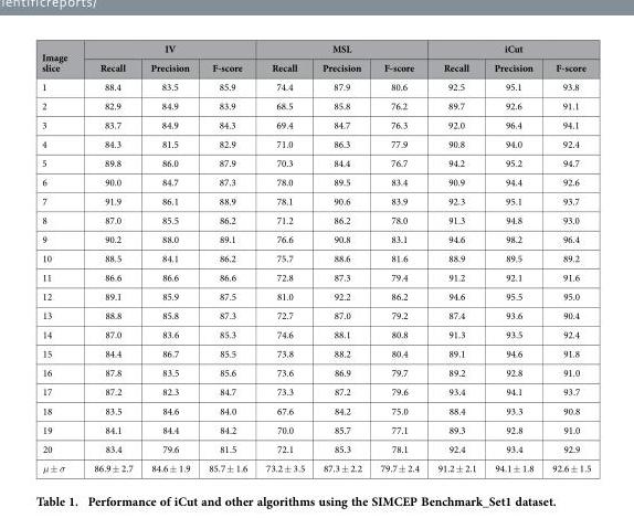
<table><thead><tr><td rowspan="2">Image slice</td><td colspan="3">IV</td><td colspan="3">MSL</td><td colspan="3">iCut</td></tr><tr><td>Recall</td><td>Precision</td><td>F-score</td><td>Recall</td><td>Precision</td><td>F-score</td><td>Recall</td><td>Precision</td><td>F-score</td></tr></thead><tbody><tr><td>1</td><td>88.4</td><td>83.5</td><td>85.9</td><td>74.4</td><td>87.9</td><td>80.6</td><td>92.5</td><td>95.1</td><td>93.8</td></tr><tr><td>2</td><td>82.9</td><td>84.9</td><td>83.9</td><td>68.5</td><td>85.8</td><td>76.2</td><td>89.7</td><td>92.6</td><td>91.1</td></tr><tr><td>3</td><td>83.7</td><td>84.9</td><td>84.3</td><td>69.4</td><td>84.7</td><td>76.3</td><td>92.0</td><td>96.4</td><td>94.1</td></tr><tr><td>4</td><td>84.3</td><td>81.5</td><td>82.9</td><td>71.0</td><td>86.3</td><td>77.9</td><td>90.8</td><td>94.0</td><td>92.4</td></tr><tr><td>5</td><td>89.8</td><td>86.0</td><td>87.9</td><td>70.3</td><td>84.4</td><td>76.7</td><td>94.2</td><td>95.2</td><td>94.7</td></tr><tr><td>6</td><td>90.0</td><td>84.7</td><td>87.3</td><td>78.0</td><td>89.5</td><td>83.4</td><td>90.9</td><td>94.4</td><td>92.6</td></tr><tr><td>7</td><td>91.9</td><td>86.1</td><td>88.9</td><td>78.1</td><td>90.6</td><td>83.9</td><td>92.3</td><td>95.1</td><td>93.7</td></tr><tr><td>8</td><td>87.0</td><td>85.5</td><td>86.2</td><td>71.2</td><td>86.2</td><td>78.0</td><td>91.3</td><td>94.8</td><td>93.0</td></tr><tr><td>9</td><td>90.2</td><td>88.0</td><td>89.1</td><td>76.6</td><td>90.8</td><td>83.1</td><td>94.6</td><td>98.2</td><td>96.4</td></tr><tr><td>10</td><td>88.5</td><td>84.1</td><td>86.2</td><td>75.7</td><td>88.6</td><td>81.6</td><td>88.9</td><td>89.5</td><td>89.2</td></tr><tr><td>11</td><td>86.6</td><td>86.6</td><td>86.6</td><td>72.8</td><td>87.3</td><td>79.4</td><td>91.2</td><td>92.1</td><td>91.6</td></tr><tr><td>12</td><td>89.1</td><td>85.9</td><td>87.5</td><td>81.0</td><td>92.2</td><td>86.2</td><td>94.6</td><td>95.5</td><td>95.0</td></tr><tr><td>13</td><td>88.8</td><td>85.8</td><td>87.3</td><td>72.7</td><td>87.0</td><td>79.2</td><td>87.4</td><td>93.6</td><td>90.4</td></tr><tr><td>14</td><td>87.0</td><td>83.6</td><td>85.3</td><td>74.6</td><td>88.1</td><td>80.8</td><td>91.3</td><td>93.5</td><td>92.4</td></tr><tr><td>15</td><td>84.4</td><td>86.7</td><td>85.5</td><td>73.8</td><td>88.2</td><td>80.4</td><td>89.1</td><td>94.6</td><td>91.8</td></tr><tr><td>16</td><td>87.8</td><td>83.5</td><td>85.6</td><td>73.6</td><td>86.9</td><td>79.7</td><td>89.2</td><td>92.8</td><td>91.0</td></tr><tr><td>17</td><td>87.2</td><td>82.3</td><td>84.7</td><td>73.3</td><td>87.2</td><td>79.6</td><td>93.4</td><td>94.1</td><td>93.7</td></tr><tr><td>18</td><td>83.5</td><td>84.6</td><td>84.0</td><td>67.6</td><td>84.2</td><td>75.0</td><td>88.4</td><td>93.3</td><td>90.8</td></tr><tr><td>19</td><td>84.1</td><td>84.4</td><td>84.2</td><td>70.0</td><td>85.7</td><td>77.1</td><td>89.3</td><td>92.8</td><td>91.0</td></tr><tr><td>20</td><td>83.4</td><td>79.6</td><td>81.5</td><td>72.1</td><td>85.3</td><td>78.1</td><td>92.4</td><td>93.4</td><td>92.9</td></tr><tr><td>μ ± σ</td><td>86.9 ± 2.7</td><td>84.6 ± 1.9</td><td>85.7 ± 1.6</td><td>73.2 ± 3.5</td><td>87.3 ± 2.2</td><td>79.7 ± 2.4</td><td>91.2 ± 2.1</td><td>94.1 ± 1.8</td><td>92.6 ± 1.5</td></tr></tbody></table>